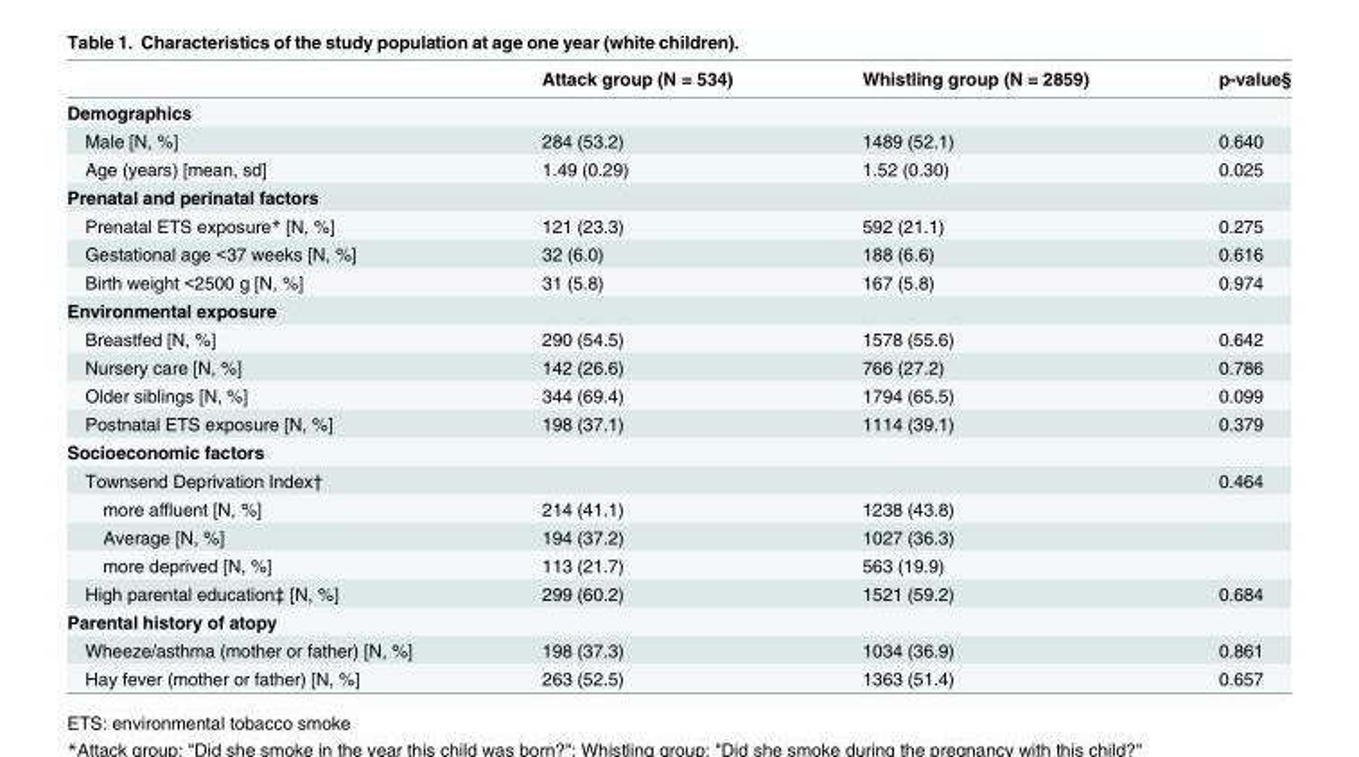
<table><thead><tr><td></td><td>Attack group (N = 534)</td><td>Whistling group (N = 2859)</td><td>p-value§</td></tr></thead><tbody><tr><td colspan="4">Demographics</td></tr><tr><td>Male [N, %]</td><td>284 (53.2)</td><td>1489 (52.1)</td><td>0.640</td></tr><tr><td>Age (years) [mean, sd]</td><td>1.49 (0.29)</td><td>1.52 (0.30)</td><td>0.025</td></tr><tr><td colspan="4">Prenatal and perinatal factors</td></tr><tr><td>Prenatal ETS exposure* [N, %]</td><td>121 (23.3)</td><td>592 (21.1)</td><td>0.275</td></tr><tr><td>Gestational age &lt;37 weeks [N, %]</td><td>32 (6.0)</td><td>188 (6.6)</td><td>0.616</td></tr><tr><td>Birth weight &lt;2500 g [N, %]</td><td>31 (5.8)</td><td>167 (5.8)</td><td>0.974</td></tr><tr><td colspan="4">Environmental exposure</td></tr><tr><td>Breastfed [N, %]</td><td>290 (54.5)</td><td>1578 (55.6)</td><td>0.642</td></tr><tr><td>Nursery care [N, %]</td><td>142 (26.6)</td><td>766 (27.2)</td><td>0.786</td></tr><tr><td>Older siblings [N, %]</td><td>344 (69.4)</td><td>1794 (65.5)</td><td>0.099</td></tr><tr><td>Postnatal ETS exposure [N, %]</td><td>198 (37.1)</td><td>1114 (39.1)</td><td>0.379</td></tr><tr><td colspan="4">Socioeconomic factors</td></tr><tr><td>Townsend Deprivation Index†</td><td></td><td></td><td>0.464</td></tr><tr><td>more affluent [N, %]</td><td>214 (41.1)</td><td>1238 (43.8)</td><td></td></tr><tr><td>Average [N, %]</td><td>194 (37.2)</td><td>1027 (36.3)</td><td></td></tr><tr><td>more deprived [N, %]</td><td>113 (21.7)</td><td>563 (19.9)</td><td></td></tr><tr><td>High parental education‡ [N, %]</td><td>299 (60.2)</td><td>1521 (59.2)</td><td>0.684</td></tr><tr><td colspan="4">Parental history of atopy</td></tr><tr><td>Wheeze/asthma (mother or father) [N, %]</td><td>198 (37.3)</td><td>1034 (36.9)</td><td>0.861</td></tr><tr><td>Hay fever (mother or father) [N, %]</td><td>263 (52.5)</td><td>1363 (51.4)</td><td>0.657</td></tr></tbody></table>